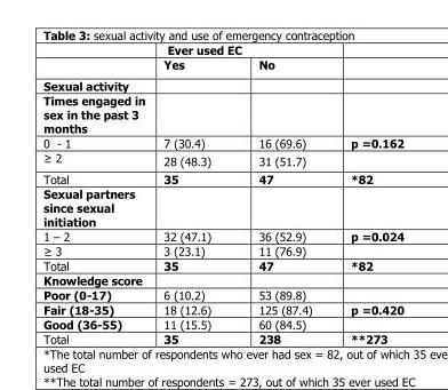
<table><thead><tr><td rowspan="2"></td><td colspan="2">Ever used EC</td><td rowspan="2"></td></tr><tr><td>Yes</td><td>No</td></tr></thead><tbody><tr><td colspan="4">Sexual activity</td></tr><tr><td colspan="4">Times engaged in sex in the past 3 months</td></tr><tr><td>0 - 1</td><td>7 (30.4)</td><td>16 (69.6)</td><td>p =0.162</td></tr><tr><td>≥ 2</td><td>28 (48.3)</td><td>31 (51.7)</td><td></td></tr><tr><td>Total</td><td>35</td><td>47</td><td>*82</td></tr><tr><td colspan="4">Sexual partners since sexual initiation</td></tr><tr><td>1 – 2</td><td>32 (47.1)</td><td>36 (52.9)</td><td>p =0.024</td></tr><tr><td>≥ 3</td><td>3 (23.1)</td><td>11 (76.9)</td><td></td></tr><tr><td>Total</td><td>35</td><td>47</td><td>*82</td></tr><tr><td colspan="4">Knowledge score</td></tr><tr><td>Poor (0-17)</td><td>6 (10.2)</td><td>53 (89.8)</td><td></td></tr><tr><td>Fair (18-35)</td><td>18 (12.6)</td><td>125 (87.4)</td><td>p =0.420</td></tr><tr><td>Good (36-55)</td><td>11 (15.5)</td><td>60 (84.5)</td><td></td></tr><tr><td>Total</td><td>35</td><td>238</td><td>**273</td></tr></tbody></table>